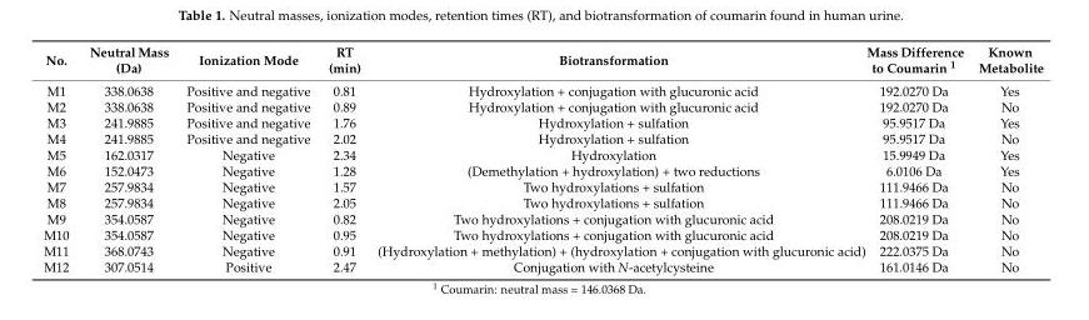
<table><thead><tr><td>No.</td><td>Neutral Mass (Da)</td><td>Ionization Mode</td><td>RT (min)</td><td>Biotransformation</td><td>Mass Difference to Coumarin <sup>1</sup></td><td>Known Metabolite</td></tr></thead><tbody><tr><td>M1</td><td>338.0638</td><td>Positive and negative</td><td>0.81</td><td>Hydroxylation + conjugation with glucuronic acid</td><td>192.0270 Da</td><td>Yes</td></tr><tr><td>M2</td><td>338.0638</td><td>Positive and negative</td><td>0.89</td><td>Hydroxylation + conjugation with glucuronic acid</td><td>192.0270 Da</td><td>No</td></tr><tr><td>M3</td><td>241.9885</td><td>Positive and negative</td><td>1.76</td><td>Hydroxylation + sulfation</td><td>95.9517 Da</td><td>Yes</td></tr><tr><td>M4</td><td>241.9885</td><td>Positive and negative</td><td>2.02</td><td>Hydroxylation + sulfation</td><td>95.9517 Da</td><td>No</td></tr><tr><td>M5</td><td>162.0317</td><td>Negative</td><td>2.34</td><td>Hydroxylation</td><td>15.9949 Da</td><td>Yes</td></tr><tr><td>M6</td><td>152.0473</td><td>Negative</td><td>1.28</td><td>(Demethylation + hydroxylation) + two reductions</td><td>6.0106 Da</td><td>Yes</td></tr><tr><td>M7</td><td>257.9834</td><td>Negative</td><td>1.57</td><td>Two hydroxylations + sulfation</td><td>111.9466 Da</td><td>No</td></tr><tr><td>M8</td><td>257.9834</td><td>Negative</td><td>2.05</td><td>Two hydroxylations + sulfation</td><td>111.9466 Da</td><td>No</td></tr><tr><td>M9</td><td>354.0587</td><td>Negative</td><td>0.82</td><td>Two hydroxylations + conjugation with glucuronic acid</td><td>208.0219 Da</td><td>No</td></tr><tr><td>M10</td><td>354.0587</td><td>Negative</td><td>0.95</td><td>Two hydroxylations + conjugation with glucuronic acid</td><td>208.0219 Da</td><td>No</td></tr><tr><td>M11</td><td>368.0743</td><td>Negative</td><td>0.91</td><td>(Hydroxylation + methylation) + (hydroxylation + conjugation with glucuronic acid)</td><td>222.0375 Da</td><td>No</td></tr><tr><td>M12</td><td>307.0514</td><td>Positive</td><td>2.47</td><td>Conjugation with N-acetylcysteine</td><td>161.0146 Da</td><td>No</td></tr></tbody></table>